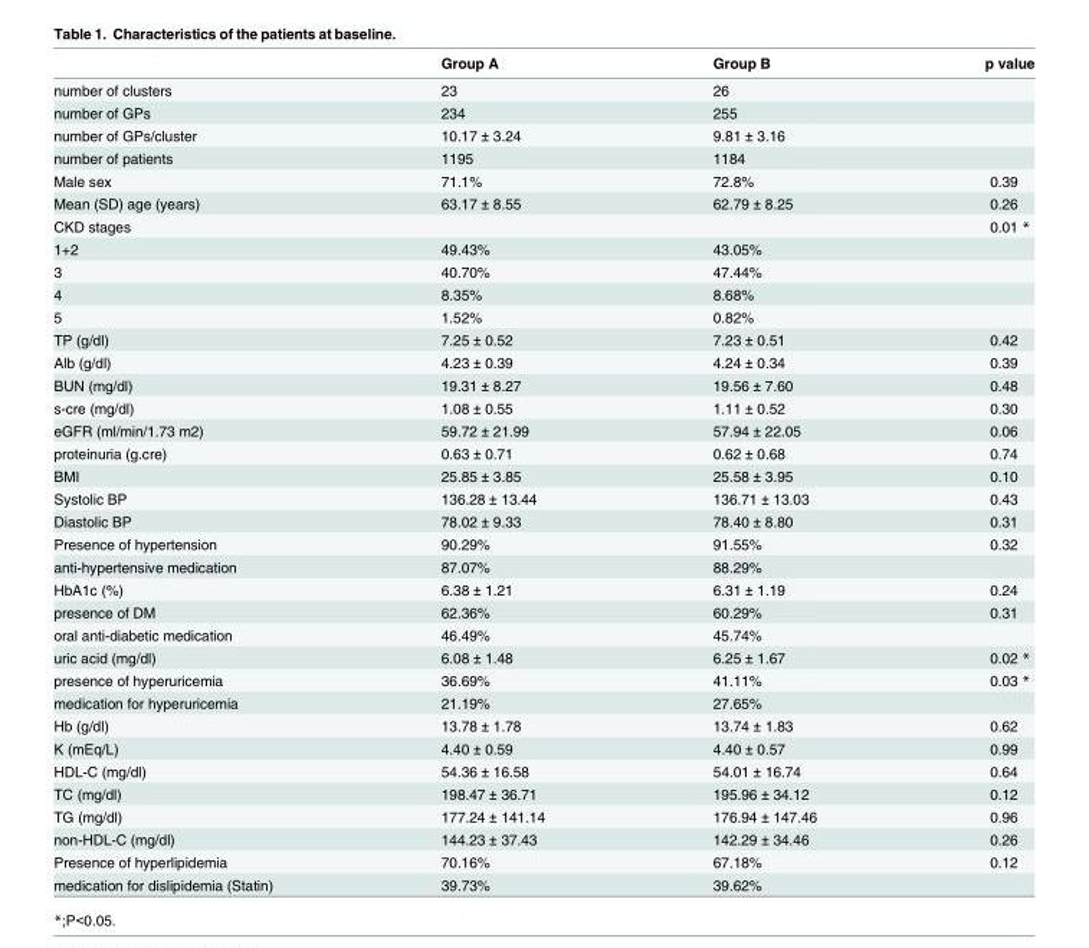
<table><thead><tr><td></td><td>Group A</td><td>Group B</td><td>p value</td></tr></thead><tbody><tr><td>number of clusters</td><td>23</td><td>26</td><td></td></tr><tr><td>number of GPs</td><td>234</td><td>255</td><td></td></tr><tr><td>number of GPs/cluster</td><td>10.17 ± 3.24</td><td>9.81 ± 3.16</td><td></td></tr><tr><td>number of patients</td><td>1195</td><td>1184</td><td></td></tr><tr><td>Male sex</td><td>71.1%</td><td>72.8%</td><td>0.39</td></tr><tr><td>Mean (SD) age (years)</td><td>63.17 ± 8.55</td><td>62.79 ± 8.25</td><td>0.26</td></tr><tr><td>CKD stages</td><td></td><td></td><td>0.01 *</td></tr><tr><td>1+2</td><td>49.43%</td><td>43.05%</td><td></td></tr><tr><td>3</td><td>40.70%</td><td>47.44%</td><td></td></tr><tr><td>4</td><td>8.35%</td><td>8.68%</td><td></td></tr><tr><td>5</td><td>1.52%</td><td>0.82%</td><td></td></tr><tr><td>TP (g/dl)</td><td>7.25 ± 0.52</td><td>7.23 ± 0.51</td><td>0.42</td></tr><tr><td>Alb (g/dl)</td><td>4.23 ± 0.39</td><td>4.24 ± 0.34</td><td>0.39</td></tr><tr><td>BUN (mg/dl)</td><td>19.31 ± 8.27</td><td>19.56 ± 7.60</td><td>0.48</td></tr><tr><td>s-cre (mg/dl)</td><td>1.08 ± 0.55</td><td>1.11 ± 0.52</td><td>0.30</td></tr><tr><td>eGFR (ml/min/1.73 m2)</td><td>59.72 ± 21.99</td><td>57.94 ± 22.05</td><td>0.06</td></tr><tr><td>proteinuria (g.cre)</td><td>0.63 ± 0.71</td><td>0.62 ± 0.68</td><td>0.74</td></tr><tr><td>BMI</td><td>25.85 ± 3.85</td><td>25.58 ± 3.95</td><td>0.10</td></tr><tr><td>Systolic BP</td><td>136.28 ± 13.44</td><td>136.71 ± 13.03</td><td>0.43</td></tr><tr><td>Diastolic BP</td><td>78.02 ± 9.33</td><td>78.40 ± 8.80</td><td>0.31</td></tr><tr><td>Presence of hypertension</td><td>90.29%</td><td>91.55%</td><td>0.32</td></tr><tr><td>anti-hypertensive medication</td><td>87.07%</td><td>88.29%</td><td></td></tr><tr><td>HbA1c (%)</td><td>6.38 ± 1.21</td><td>6.31 ± 1.19</td><td>0.24</td></tr><tr><td>presence of DM</td><td>62.36%</td><td>60.29%</td><td>0.31</td></tr><tr><td>oral anti-diabetic medication</td><td>46.49%</td><td>45.74%</td><td></td></tr><tr><td>uric acid (mg/dl)</td><td>6.08 ± 1.48</td><td>6.25 ± 1.67</td><td>0.02 *</td></tr><tr><td>presence of hyperuricemia</td><td>36.69%</td><td>41.11%</td><td>0.03 *</td></tr><tr><td>medication for hyperuricemia</td><td>21.19%</td><td>27.65%</td><td></td></tr><tr><td>Hb (g/dl)</td><td>13.78 ± 1.78</td><td>13.74 ± 1.83</td><td>0.62</td></tr><tr><td>K (mEq/L)</td><td>4.40 ± 0.59</td><td>4.40 ± 0.57</td><td>0.99</td></tr><tr><td>HDL-C (mg/dl)</td><td>54.36 ± 16.58</td><td>54.01 ± 16.74</td><td>0.64</td></tr><tr><td>TC (mg/dl)</td><td>198.47 ± 36.71</td><td>195.96 ± 34.12</td><td>0.12</td></tr><tr><td>TG (mg/dl)</td><td>177.24 ± 141.14</td><td>176.94 ± 147.46</td><td>0.96</td></tr><tr><td>non-HDL-C (mg/dl)</td><td>144.23 ± 37.43</td><td>142.29 ± 34.46</td><td>0.26</td></tr><tr><td>Presence of hyperlipidemia</td><td>70.16%</td><td>67.18%</td><td>0.12</td></tr><tr><td>medication for dislipidemia (Statin)</td><td>39.73%</td><td>39.62%</td><td></td></tr></tbody></table>